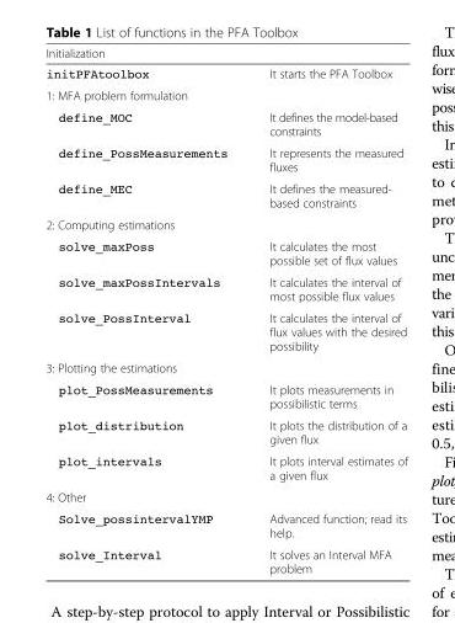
<table><thead><tr><td>Initialization</td><td></td></tr></thead><tbody><tr><td>initPFAtoolbox</td><td>It starts the PFA Toolbox</td></tr><tr><td colspan="2">1: MFA problem formulation</td></tr><tr><td>define_MOC</td><td>It defines the model-based constraints</td></tr><tr><td>define_PossMeasurements</td><td>It represents the measured fluxes</td></tr><tr><td>define_MEC</td><td>It defines the measured- based constraints</td></tr><tr><td colspan="2">2: Computing estimations</td></tr><tr><td>solve_maxPoss</td><td>It calculates the most possible set of flux values</td></tr><tr><td>solve_maxPossIntervals</td><td>It calculates the interval of most possible flux values</td></tr><tr><td>solve_PossInterval</td><td>It calculates the interval of flux values with the desired possibility</td></tr><tr><td colspan="2">3: Plotting the estimations</td></tr><tr><td>plot_PossMeasurements</td><td>It plots measurements in possibilistic terms</td></tr><tr><td>plot_distribution</td><td>It plots the distribution of a given flux</td></tr><tr><td>plot_intervals</td><td>It plots interval estimates of a given flux</td></tr><tr><td colspan="2">4: Other</td></tr><tr><td>Solve_possintervalYMP</td><td>Advanced function; read its help.</td></tr><tr><td>solve_Interval</td><td>It solves an Interval MFA problem</td></tr></tbody></table>